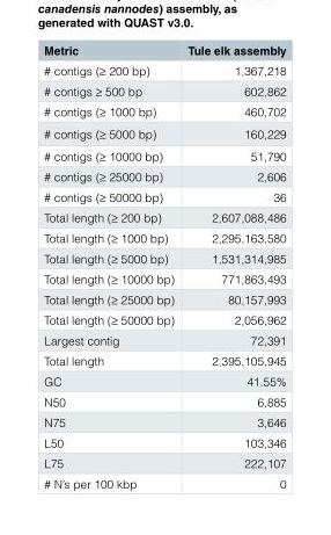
<table><thead><tr><td>Metric</td><td>Tule elk assembly</td></tr></thead><tbody><tr><td># contigs (≥ 200 bp)</td><td>1,367,218</td></tr><tr><td># contigs ≥ 500 bp</td><td>602,862</td></tr><tr><td># contigs (≥ 1000 bp)</td><td>460,702</td></tr><tr><td># contigs (≥ 5000 bp)</td><td>160,229</td></tr><tr><td># contigs (≥ 10000 bp)</td><td>51,790</td></tr><tr><td># contigs (≥ 25000 bp)</td><td>2,606</td></tr><tr><td># contigs (≥ 50000 bp)</td><td>36</td></tr><tr><td>Total length (≥ 200 bp)</td><td>2,607,088,486</td></tr><tr><td>Total length (≥ 1000 bp)</td><td>2,295,163,580</td></tr><tr><td>Total length (≥ 5000 bp)</td><td>1,531,314,985</td></tr><tr><td>Total length (≥ 10000 bp)</td><td>771,863,493</td></tr><tr><td>Total length (≥ 25000 bp)</td><td>80,157,993</td></tr><tr><td>Total length (≥ 50000 bp)</td><td>2,056,962</td></tr><tr><td>Largest contig</td><td>72,391</td></tr><tr><td>Total length</td><td>2,395,105,945</td></tr><tr><td>GC</td><td>41.55%</td></tr><tr><td>N50</td><td>6,885</td></tr><tr><td>N75</td><td>3,646</td></tr><tr><td>L50</td><td>103,346</td></tr><tr><td>L75</td><td>222,107</td></tr><tr><td># N’s per 100 kbp</td><td>0</td></tr></tbody></table>